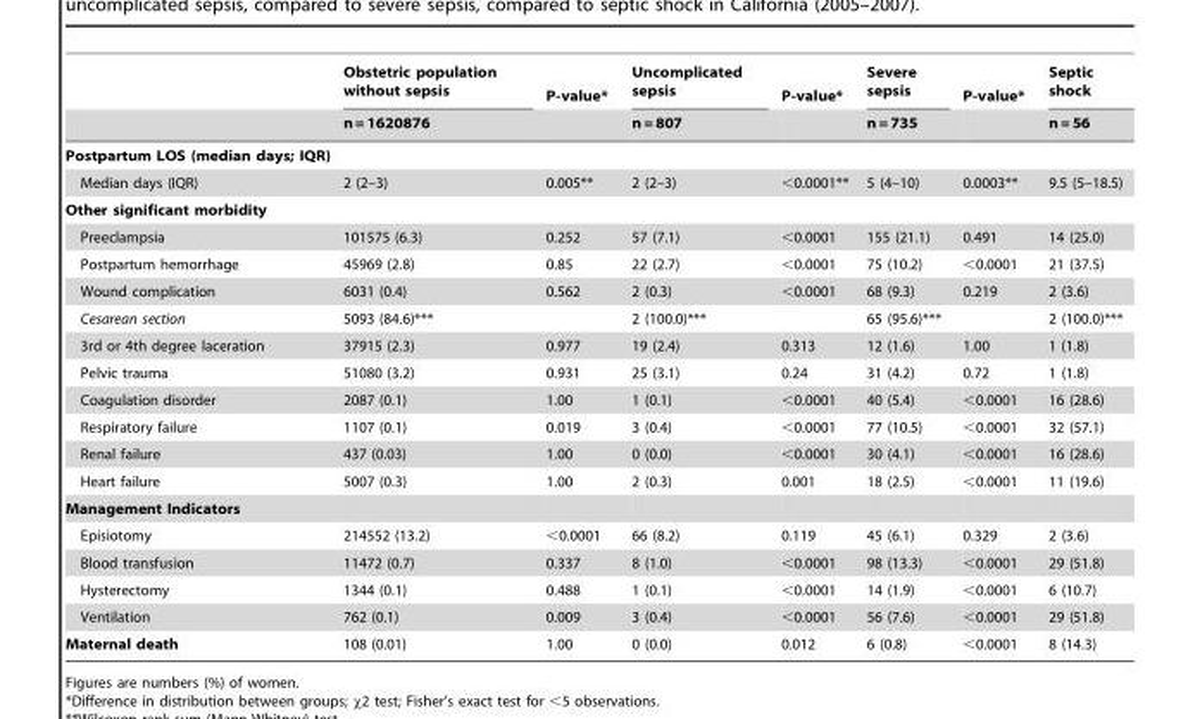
<table><thead><tr><td rowspan="2"></td><td rowspan="2">Obstetric population without sepsis n = 1620876</td><td rowspan="2">P-value*</td><td rowspan="2">Uncomplicated sepsis n = 807</td><td rowspan="2">P-value*</td><td rowspan="2">Severe sepsis n = 735</td><td rowspan="2">P-value*</td><td rowspan="2">Septic shock n = 56</td></tr><tr></tr></thead><tbody><tr><td colspan="8">Postpartum LOS (median days; IQR)</td></tr><tr><td>Median days (IQR)</td><td>2 (2–3)</td><td>0.005**</td><td>2 (2–3)</td><td>&lt;0.0001**</td><td>5 (4–10)</td><td>0.0003**</td><td>9.5 (5–18.5)</td></tr><tr><td colspan="8">Other significant morbidity</td></tr><tr><td>Preeclampsia</td><td>101575 (6.3)</td><td>0.252</td><td>57 (7.1)</td><td>&lt;0.0001</td><td>155 (21.1)</td><td>0.491</td><td>14 (25.0)</td></tr><tr><td>Postpartum hemorrhage</td><td>45969 (2.8)</td><td>0.85</td><td>22 (2.7)</td><td>&lt;0.0001</td><td>75 (10.2)</td><td>&lt;0.0001</td><td>21 (37.5)</td></tr><tr><td>Wound complication</td><td>6031 (0.4)</td><td>0.562</td><td>2 (0.3)</td><td>&lt;0.0001</td><td>68 (9.3)</td><td>0.219</td><td>2 (3.6)</td></tr><tr><td>Cesarean section</td><td>5093 (84.6)***</td><td></td><td>2 (100.0)***</td><td></td><td>65 (95.6)***</td><td></td><td>2 (100.0)***</td></tr><tr><td>3rd or 4th degree laceration</td><td>37915 (2.3)</td><td>0.977</td><td>19 (2.4)</td><td>0.313</td><td>12 (1.6)</td><td>1.00</td><td>1 (1.8)</td></tr><tr><td>Pelvic trauma</td><td>51080 (3.2)</td><td>0.931</td><td>25 (3.1)</td><td>0.24</td><td>31 (4.2)</td><td>0.72</td><td>1 (1.8)</td></tr><tr><td>Coagulation disorder</td><td>2087 (0.1)</td><td>1.00</td><td>1 (0.1)</td><td>&lt;0.0001</td><td>40 (5.4)</td><td>&lt;0.0001</td><td>16 (28.6)</td></tr><tr><td>Respiratory failure</td><td>1107 (0.1)</td><td>0.019</td><td>3 (0.4)</td><td>&lt;0.0001</td><td>77 (10.5)</td><td>&lt;0.0001</td><td>32 (57.1)</td></tr><tr><td>Renal failure</td><td>437 (0.03)</td><td>1.00</td><td>0 (0.0)</td><td>&lt;0.0001</td><td>30 (4.1)</td><td>&lt;0.0001</td><td>16 (28.6)</td></tr><tr><td>Heart failure</td><td>5007 (0.3)</td><td>1.00</td><td>2 (0.3)</td><td>0.001</td><td>18 (2.5)</td><td>&lt;0.0001</td><td>11 (19.6)</td></tr><tr><td colspan="8">Management Indicators</td></tr><tr><td>Episiotomy</td><td>214552 (13.2)</td><td>&lt;0.0001</td><td>66 (8.2)</td><td>0.119</td><td>45 (6.1)</td><td>0.329</td><td>2 (3.6)</td></tr><tr><td>Blood transfusion</td><td>11472 (0.7)</td><td>0.337</td><td>8 (1.0)</td><td>&lt;0.0001</td><td>98 (13.3)</td><td>&lt;0.0001</td><td>29 (51.8)</td></tr><tr><td>Hysterectomy</td><td>1344 (0.1)</td><td>0.488</td><td>1 (0.1)</td><td>&lt;0.0001</td><td>14 (1.9)</td><td>&lt;0.0001</td><td>6 (10.7)</td></tr><tr><td>Ventilation</td><td>762 (0.1)</td><td>0.009</td><td>3 (0.4)</td><td>&lt;0.0001</td><td>56 (7.6)</td><td>&lt;0.0001</td><td>29 (51.8)</td></tr><tr><td>Maternal death</td><td>108 (0.01)</td><td>1.00</td><td>0 (0.0)</td><td>0.012</td><td>6 (0.8)</td><td>&lt;0.0001</td><td>8 (14.3)</td></tr></tbody></table>